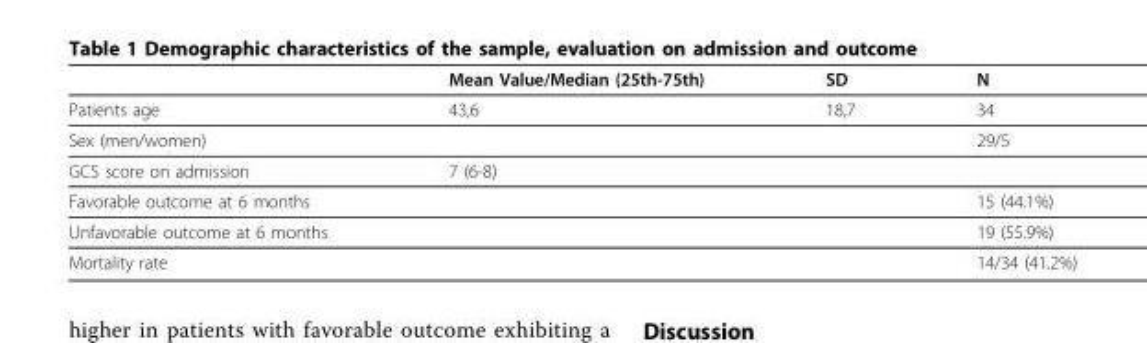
<table><thead><tr><td></td><td>Mean Value/Median (25th-75th)</td><td>SD</td><td>N</td></tr></thead><tbody><tr><td>Patients age</td><td>43,6</td><td>18,7</td><td>34</td></tr><tr><td>Sex (men/women)</td><td></td><td></td><td>29/5</td></tr><tr><td>GCS score on admission</td><td>7 (6-8)</td><td></td><td></td></tr><tr><td>Favorable outcome at 6 months</td><td></td><td></td><td>15 (44.1%)</td></tr><tr><td>Unfavorable outcome at 6 months</td><td></td><td></td><td>19 (55.9%)</td></tr><tr><td>Mortality rate</td><td></td><td></td><td>14/34 (41.2%)</td></tr></tbody></table>